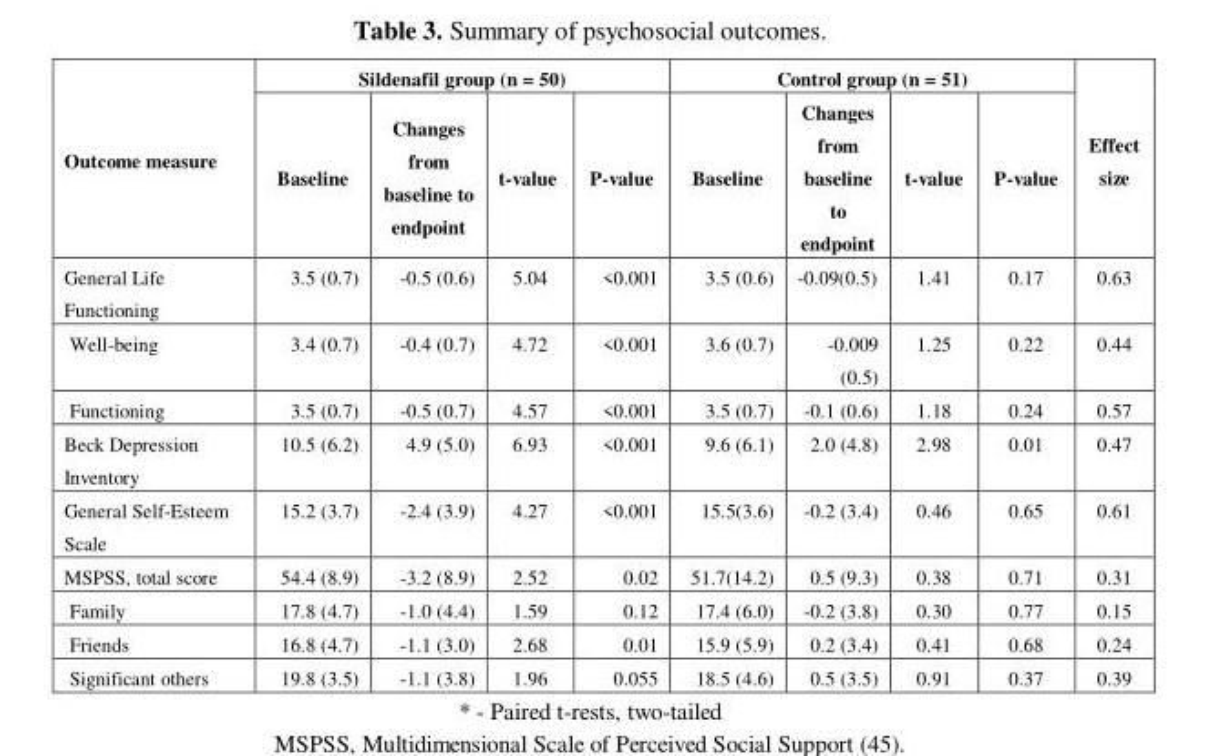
<table><thead><tr><td rowspan="2">Outcome measure</td><td colspan="4">Sildenafil group (n = 50)</td><td colspan="4">Control group (n = 51)</td><td rowspan="2">Effect size</td></tr><tr><td>Baseline</td><td>Changes from baseline to endpoint</td><td>t-value</td><td>P-value</td><td>Baseline</td><td>Changes from baseline to endpoint</td><td>t-value</td><td>P-value</td></tr></thead><tbody><tr><td>General Life Functioning</td><td>3.5 (0.7)</td><td>-0.5 (0.6)</td><td>5.04</td><td>&lt;0.001</td><td>3.5 (0.6)</td><td>-0.09(0.5)</td><td>1.41</td><td>0.17</td><td>0.63</td></tr><tr><td>Well-being</td><td>3.4 (0.7)</td><td>-0.4 (0.7)</td><td>4.72</td><td>&lt;0.001</td><td>3.6 (0.7)</td><td>-0.009 (0.5)</td><td>1.25</td><td>0.22</td><td>0.44</td></tr><tr><td>Functioning</td><td>3.5 (0.7)</td><td>-0.5 (0.7)</td><td>4.57</td><td>&lt;0.001</td><td>3.5 (0.7)</td><td>-0.1 (0.6)</td><td>1.18</td><td>0.24</td><td>0.57</td></tr><tr><td>Beck Depression Inventory</td><td>10.5 (6.2)</td><td>4.9 (5.0)</td><td>6.93</td><td>&lt;0.001</td><td>9.6 (6.1)</td><td>2.0 (4.8)</td><td>2.98</td><td>0.01</td><td>0.47</td></tr><tr><td>General Self-Esteem Scale</td><td>15.2 (3.7)</td><td>-2.4 (3.9)</td><td>4.27</td><td>&lt;0.001</td><td>15.5(3.6)</td><td>-0.2 (3.4)</td><td>0.46</td><td>0.65</td><td>0.61</td></tr><tr><td>MSPSS, total score</td><td>54.4 (8.9)</td><td>-3.2 (8.9)</td><td>2.52</td><td>0.02</td><td>51.7(14.2)</td><td>0.5 (9.3)</td><td>0.38</td><td>0.71</td><td>0.31</td></tr><tr><td>Family</td><td>17.8 (4.7)</td><td>-1.0 (4.4)</td><td>1.59</td><td>0.12</td><td>17.4 (6.0)</td><td>-0.2 (3.8)</td><td>0.30</td><td>0.77</td><td>0.15</td></tr><tr><td>Friends</td><td>16.8 (4.7)</td><td>-1.1 (3.0)</td><td>2.68</td><td>0.01</td><td>15.9 (5.9)</td><td>0.2 (3.4)</td><td>0.41</td><td>0.68</td><td>0.24</td></tr><tr><td>Significant others</td><td>19.8 (3.5)</td><td>-1.1 (3.8)</td><td>1.96</td><td>0.055</td><td>18.5 (4.6)</td><td>0.5 (3.5)</td><td>0.91</td><td>0.37</td><td>0.39</td></tr></tbody></table>